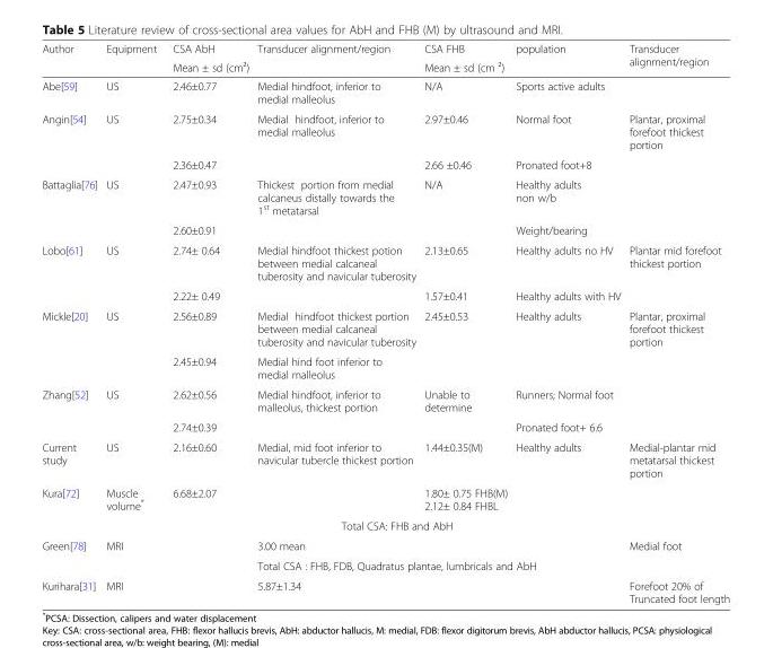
<table><thead><tr><td rowspan="2">Author</td><td rowspan="2">Equipment</td><td rowspan="2">CSA AbH Mean ± sd (cm²)</td><td rowspan="2">Transducer alignment/region</td><td rowspan="2">CSA FHB Mean ± sd (cm ²)</td><td rowspan="2">population</td><td rowspan="2">Transducer alignment/region</td></tr><tr></tr></thead><tbody><tr><td>Abe[59]</td><td>US</td><td>2.46±0.77</td><td>Medial hindfoot, inferior to medial malleolus</td><td>N/A</td><td>Sports active adults</td><td></td></tr><tr><td rowspan="2">Angin[54]</td><td>US</td><td>2.75±0.34</td><td>Medial hindfoot, inferior to medial malleolus</td><td>2.97±0.46</td><td>Normal foot</td><td>Plantar, proximal forefoot thickest portion</td></tr><tr><td></td><td>2.36±0.47</td><td></td><td>2.66 ±0.46</td><td>Pronated foot+8</td><td></td></tr><tr><td rowspan="2">Battaglia[76]</td><td>US</td><td>2.47±0.93</td><td>Thickest portion from medial calcaneus distally towards the 1<sup>st</sup> metatarsal</td><td>N/A</td><td>Healthy adults non w/b</td><td></td></tr><tr><td></td><td>2.60±0.91</td><td></td><td></td><td>Weight/bearing</td><td></td></tr><tr><td rowspan="2">Lobo[61]</td><td>US</td><td>2.74± 0.64</td><td>Medial hindfoot thickest potion between medial calcaneal tuberosity and navicular tuberosity</td><td>2.13±0.65</td><td>Healthy adults no HV</td><td>Plantar mid forefoot thickest portion</td></tr><tr><td></td><td>2.22± 0.49</td><td></td><td>1.57±0.41</td><td>Healthy adults with HV</td><td></td></tr><tr><td rowspan="2">Mickle[20]</td><td>US</td><td>2.56±0.89</td><td>Medial hindfoot thickest portion between medial calcaneal tuberosity and navicular tuberosity</td><td>2.45±0.53</td><td>Healthy adults</td><td>Plantar, proximal forefoot thickest portion</td></tr><tr><td></td><td>2.45±0.94</td><td>Medial hind foot inferior to medial malleolus</td><td></td><td></td><td></td></tr><tr><td rowspan="2">Zhang[52]</td><td>US</td><td>2.62±0.56</td><td>Medial hindfoot, inferior to malleolus, thickest portion</td><td>Unable to determine</td><td>Runners; Normal foot</td><td></td></tr><tr><td></td><td>2.74±0.39</td><td></td><td></td><td>Pronated foot+ 6.6</td><td></td></tr><tr><td>Current study</td><td>US</td><td>2.16±0.60</td><td>Medial, mid foot inferior to navicular tubercle thickest portion</td><td>1.44±0.35(M)</td><td>Healthy adults</td><td>Medial-plantar mid metatarsal thickest portion</td></tr><tr><td rowspan="2">Kura[72]</td><td>Muscle volume*</td><td>6.68±2.07</td><td></td><td>1.80± 0.75 FHB(M) 2.12± 0.84 FHBL</td><td></td><td></td></tr><tr><td></td><td colspan="4">Total CSA: FHB and AbH</td><td></td></tr><tr><td rowspan="2">Green[78]</td><td>MRI</td><td></td><td>3.00 mean</td><td></td><td></td><td>Medial foot</td></tr><tr><td></td><td colspan="4">Total CSA : FHB, FDB, Quadratus plantae, lumbricals and AbH</td><td></td></tr><tr><td>Kurihara[31]</td><td>MRI</td><td></td><td>5.87±1.34</td><td></td><td></td><td>Forefoot 20% of Truncated foot length</td></tr></tbody></table>